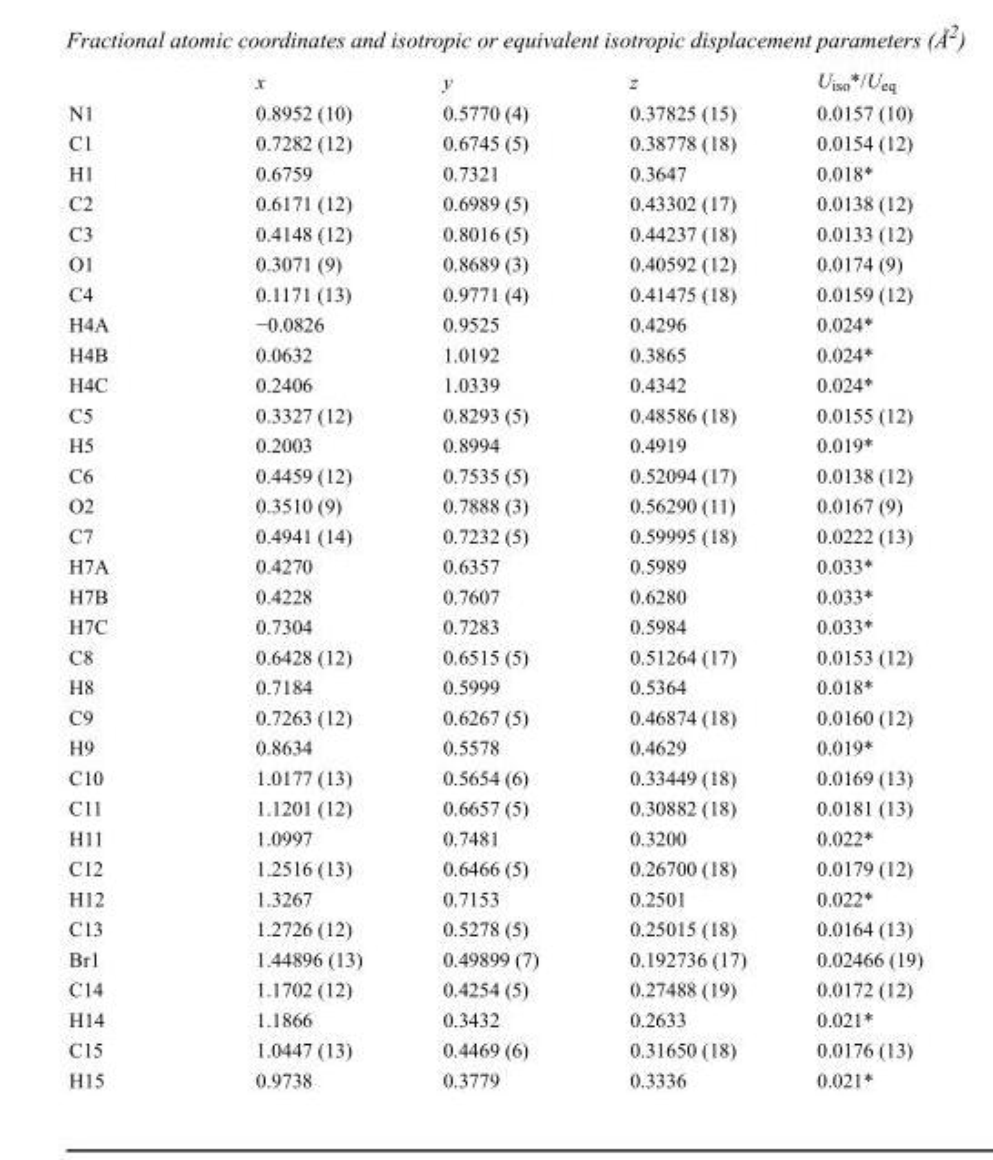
<table><thead><tr><td></td><td>x</td><td>y</td><td>z</td><td>U<sub>iso</sub>*/U<sub>eq</sub></td></tr></thead><tbody><tr><td>N1</td><td>0.8952 (10)</td><td>0.5770 (4)</td><td>0.37825 (15)</td><td>0.0157 (10)</td></tr><tr><td>C1</td><td>0.7282 (12)</td><td>0.6745 (5)</td><td>0.38778 (18)</td><td>0.0154 (12)</td></tr><tr><td>H1</td><td>0.6759</td><td>0.7321</td><td>0.3647</td><td>0.018*</td></tr><tr><td>C2</td><td>0.6171 (12)</td><td>0.6989 (5)</td><td>0.43302 (17)</td><td>0.0138 (12)</td></tr><tr><td>C3</td><td>0.4148 (12)</td><td>0.8016 (5)</td><td>0.44237 (18)</td><td>0.0133 (12)</td></tr><tr><td>O1</td><td>0.3071 (9)</td><td>0.8689 (3)</td><td>0.40592 (12)</td><td>0.0174 (9)</td></tr><tr><td>C4</td><td>0.1171 (13)</td><td>0.9771 (4)</td><td>0.41475 (18)</td><td>0.0159 (12)</td></tr><tr><td>H4A</td><td>−0.0826</td><td>0.9525</td><td>0.4296</td><td>0.024*</td></tr><tr><td>H4B</td><td>0.0632</td><td>1.0192</td><td>0.3865</td><td>0.024*</td></tr><tr><td>H4C</td><td>0.2406</td><td>1.0339</td><td>0.4342</td><td>0.024*</td></tr><tr><td>C5</td><td>0.3327 (12)</td><td>0.8293 (5)</td><td>0.48586 (18)</td><td>0.0155 (12)</td></tr><tr><td>H5</td><td>0.2003</td><td>0.8994</td><td>0.4919</td><td>0.019*</td></tr><tr><td>C6</td><td>0.4459 (12)</td><td>0.7535 (5)</td><td>0.52094 (17)</td><td>0.0138 (12)</td></tr><tr><td>O2</td><td>0.3510 (9)</td><td>0.7888 (3)</td><td>0.56290 (11)</td><td>0.0167 (9)</td></tr><tr><td>C7</td><td>0.4941 (14)</td><td>0.7232 (5)</td><td>0.59995 (18)</td><td>0.0222 (13)</td></tr><tr><td>H7A</td><td>0.4270</td><td>0.6357</td><td>0.5989</td><td>0.033*</td></tr><tr><td>H7B</td><td>0.4228</td><td>0.7607</td><td>0.6280</td><td>0.033*</td></tr><tr><td>H7C</td><td>0.7304</td><td>0.7283</td><td>0.5984</td><td>0.033*</td></tr><tr><td>C8</td><td>0.6428 (12)</td><td>0.6515 (5)</td><td>0.51264 (17)</td><td>0.0153 (12)</td></tr><tr><td>H8</td><td>0.7184</td><td>0.5999</td><td>0.5364</td><td>0.018*</td></tr><tr><td>C9</td><td>0.7263 (12)</td><td>0.6267 (5)</td><td>0.46874 (18)</td><td>0.0160 (12)</td></tr><tr><td>H9</td><td>0.8634</td><td>0.5578</td><td>0.4629</td><td>0.019*</td></tr><tr><td>C10</td><td>1.0177 (13)</td><td>0.5654 (6)</td><td>0.33449 (18)</td><td>0.0169 (13)</td></tr><tr><td>C11</td><td>1.1201 (12)</td><td>0.6657 (5)</td><td>0.30882 (18)</td><td>0.0181 (13)</td></tr><tr><td>H11</td><td>1.0997</td><td>0.7481</td><td>0.3200</td><td>0.022*</td></tr><tr><td>C12</td><td>1.2516 (13)</td><td>0.6466 (5)</td><td>0.26700 (18)</td><td>0.0179 (12)</td></tr><tr><td>H12</td><td>1.3267</td><td>0.7153</td><td>0.2501</td><td>0.022*</td></tr><tr><td>C13</td><td>1.2726 (12)</td><td>0.5278 (5)</td><td>0.25015 (18)</td><td>0.0164 (13)</td></tr><tr><td>Br1</td><td>1.44896 (13)</td><td>0.49899 (7)</td><td>0.192736 (17)</td><td>0.02466 (19)</td></tr><tr><td>C14</td><td>1.1702 (12)</td><td>0.4254 (5)</td><td>0.27488 (19)</td><td>0.0172 (12)</td></tr><tr><td>H14</td><td>1.1866</td><td>0.3432</td><td>0.2633</td><td>0.021*</td></tr><tr><td>C15</td><td>1.0447 (13)</td><td>0.4469 (6)</td><td>0.31650 (18)</td><td>0.0176 (13)</td></tr><tr><td>H15</td><td>0.9738</td><td>0.3779</td><td>0.3336</td><td>0.021*</td></tr></tbody></table>